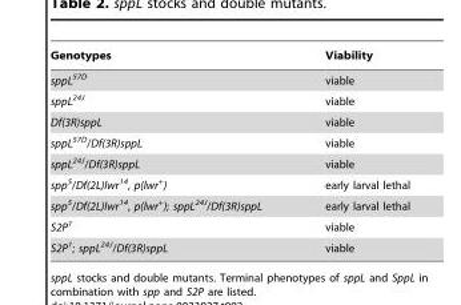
<table><thead><tr><td>Genotypes</td><td>Viability</td></tr></thead><tbody><tr><td>sppL<sup>57D</sup></td><td>viable</td></tr><tr><td>sppL<sup>24J</sup></td><td>viable</td></tr><tr><td>Df(3R)sppL</td><td>viable</td></tr><tr><td>sppL<sup>57D</sup>/Df(3R)sppL</td><td>viable</td></tr><tr><td>sppL<sup>24J</sup>/Df(3R)sppL</td><td>viable</td></tr><tr><td>spp<sup>5</sup>/Df(2L)lwr<sup>14</sup>, p(lwr<sup>+</sup>)</td><td>early larval lethal</td></tr><tr><td>spp<sup>5</sup>/Df(2L)lwr<sup>14</sup>, p(lwr<sup>+</sup>); sppL<sup>24J</sup>/Df(3R)sppL</td><td>early larval lethal</td></tr><tr><td>S2P<sup>1</sup></td><td>viable</td></tr><tr><td>S2P<sup>1</sup>; sppL<sup>24J</sup>/Df(3R)sppL</td><td>viable</td></tr></tbody></table>